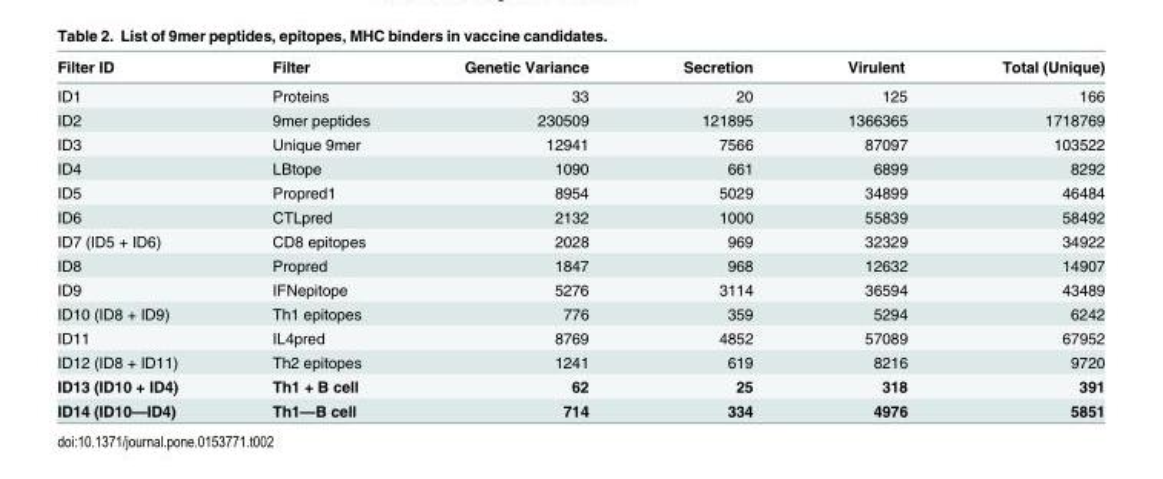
<table><thead><tr><td>Filter ID</td><td>Filter</td><td>Genetic Variance</td><td>Secretion</td><td>Virulent</td><td>Total (Unique)</td></tr></thead><tbody><tr><td>ID1</td><td>Proteins</td><td>33</td><td>20</td><td>125</td><td>166</td></tr><tr><td>ID2</td><td>9mer peptides</td><td>230509</td><td>121895</td><td>1366365</td><td>1718769</td></tr><tr><td>ID3</td><td>Unique 9mer</td><td>12941</td><td>7566</td><td>87097</td><td>103522</td></tr><tr><td>ID4</td><td>LBtope</td><td>1090</td><td>661</td><td>6899</td><td>8292</td></tr><tr><td>ID5</td><td>Propred1</td><td>8954</td><td>5029</td><td>34899</td><td>46484</td></tr><tr><td>ID6</td><td>CTLpred</td><td>2132</td><td>1000</td><td>55839</td><td>58492</td></tr><tr><td>ID7 (ID5 + ID6)</td><td>CD8 epitopes</td><td>2028</td><td>969</td><td>32329</td><td>34922</td></tr><tr><td>ID8</td><td>Propred</td><td>1847</td><td>968</td><td>12632</td><td>14907</td></tr><tr><td>ID9</td><td>IFNepitope</td><td>5276</td><td>3114</td><td>36594</td><td>43489</td></tr><tr><td>ID10 (ID8 + ID9)</td><td>Th1 epitopes</td><td>776</td><td>359</td><td>5294</td><td>6242</td></tr><tr><td>ID11</td><td>IL4pred</td><td>8769</td><td>4852</td><td>57089</td><td>67952</td></tr><tr><td>ID12 (ID8 + ID11)</td><td>Th2 epitopes</td><td>1241</td><td>619</td><td>8216</td><td>9720</td></tr><tr><td>ID13 (ID10 + ID4)</td><td>Th1 + B cell</td><td>62</td><td>25</td><td>318</td><td>391</td></tr><tr><td>ID14 (ID10—ID4)</td><td>Th1—B cell</td><td>714</td><td>334</td><td>4976</td><td>5851</td></tr></tbody></table>